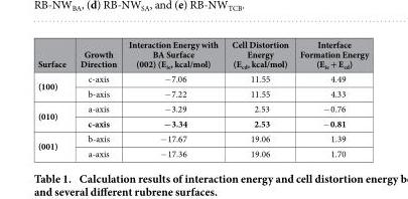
<table><thead><tr><td>Surface</td><td>Growth Direction</td><td>Interaction Energy with BA Surface (002) (E<sub>ie</sub>, kcal/mol)</td><td>Cell Distortion Energy (E<sub>cd</sub>, kcal/mol)</td><td>Interface Formation Energy (E<sub>ie</sub> + E<sub>cd</sub>)</td></tr></thead><tbody><tr><td rowspan="2">(100)</td><td>c-axis</td><td>− 7.06</td><td>11.55</td><td>4.49</td></tr><tr><td>b-axis</td><td>− 7.22</td><td>11.55</td><td>4.33</td></tr><tr><td rowspan="2">(010)</td><td>a-axis</td><td>− 3.29</td><td>2.53</td><td>− 0.76</td></tr><tr><td>c-axis</td><td>−3.34</td><td>2.53</td><td>− 0.81</td></tr><tr><td rowspan="2">(001)</td><td>b-axis</td><td>− 17.67</td><td>19.06</td><td>1.39</td></tr><tr><td>a-axis</td><td>− 17.36</td><td>19.06</td><td>1.70</td></tr></tbody></table>